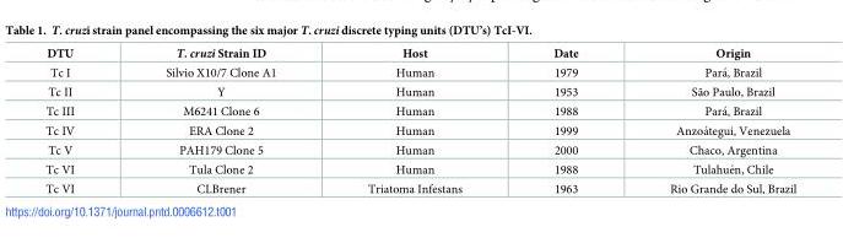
<table><thead><tr><td>DTU</td><td>T. cruzi Strain ID</td><td>Host</td><td>Date</td><td>Origin</td></tr></thead><tbody><tr><td>Tc I</td><td>Silvio X10/7 Clone A1</td><td>Human</td><td>1979</td><td>Para´, Brazil</td></tr><tr><td>Tc II</td><td>Y</td><td>Human</td><td>1953</td><td>São Paulo, Brazil</td></tr><tr><td>Tc III</td><td>M6241 Clone 6</td><td>Human</td><td>1988</td><td>Para´, Brazil</td></tr><tr><td>Tc IV</td><td>ERA Clone 2</td><td>Human</td><td>1999</td><td>Anzoa´tegui, Venezuela</td></tr><tr><td>Tc V</td><td>PAH179 Clone 5</td><td>Human</td><td>2000</td><td>Chaco, Argentina</td></tr><tr><td>Tc VI</td><td>Tula Clone 2</td><td>Human</td><td>1988</td><td>Tulahue´n, Chile</td></tr><tr><td>Tc VI</td><td>CLBrener</td><td>Triatoma Infestans</td><td>1963</td><td>Rio Grande do Sul, Brazil</td></tr></tbody></table>